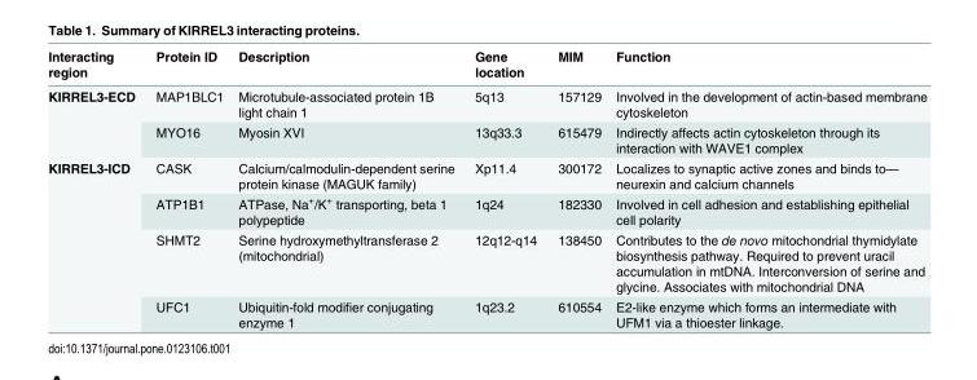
<table><thead><tr><td>Interacting region</td><td>Protein ID</td><td>Description</td><td>Gene location</td><td>MIM</td><td>Function</td></tr></thead><tbody><tr><td rowspan="2">KIRREL3-ECD</td><td>MAP1BLC1</td><td>Microtubule-associated protein 1B light chain 1</td><td>5q13</td><td>157129</td><td>Involved in the development of actin-based membrane cytoskeleton</td></tr><tr><td>MYO16</td><td>Myosin XVI</td><td>13q33.3</td><td>615479</td><td>Indirectly affects actin cytoskeleton through its interaction with WAVE1 complex</td></tr><tr><td rowspan="4">KIRREL3-ICD</td><td>CASK</td><td>Calcium/calmodulin-dependent serine protein kinase (MAGUK family)</td><td>Xp11.4</td><td>300172</td><td>Localizes to synaptic active zones and binds to— neurexin and calcium channels</td></tr><tr><td>ATP1B1</td><td>ATPase, Na<sup>+</sup>/K<sup>+</sup> transporting, beta 1 polypeptide</td><td>1q24</td><td>182330</td><td>Involved in cell adhesion and establishing epithelial cell polarity</td></tr><tr><td>SHMT2</td><td>Serine hydroxymethyltransferase 2 (mitochondrial)</td><td>12q12-q14</td><td>138450</td><td>Contributes to the de novo mitochondrial thymidylate biosynthesis pathway. Required to prevent uracil accumulation in mtDNA. Interconversion of serine and glycine. Associates with mitochondrial DNA</td></tr><tr><td>UFC1</td><td>Ubiquitin-fold modifier conjugating enzyme 1</td><td>1q23.2</td><td>610554</td><td>E2-like enzyme which forms an intermediate with UFM1 via a thioester linkage.</td></tr></tbody></table>